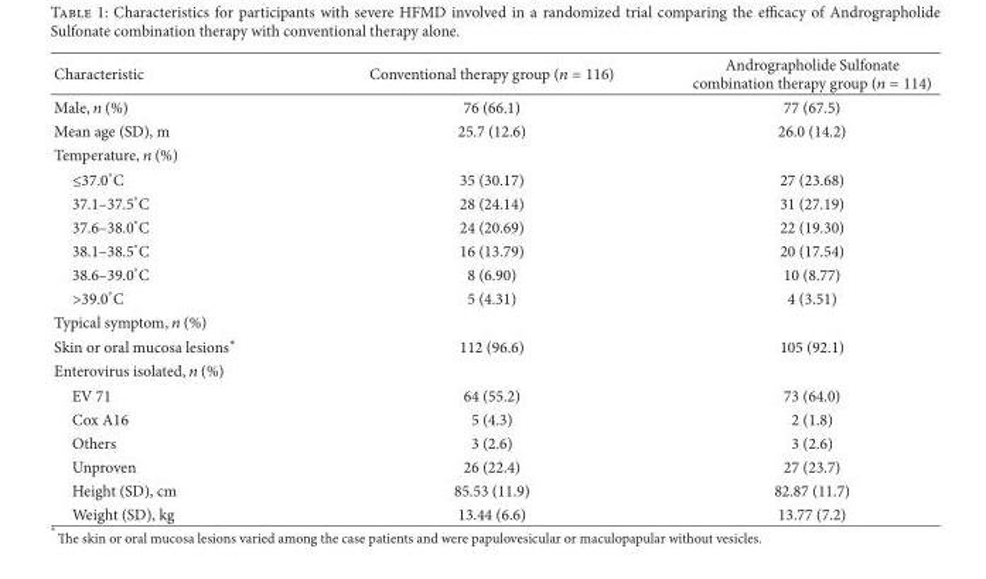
<table><thead><tr><td>Characteristic</td><td>Conventional therapy group (𝑛𝑛 𝑛 𝑛𝑛𝑛)</td><td>Andrographolide Sulfonate combination therapy group (𝑛𝑛 𝑛 𝑛𝑛𝑛)</td></tr></thead><tbody><tr><td>Male, 𝑛𝑛 (%)</td><td>76 (66.1)</td><td>77 (67.5)</td></tr><tr><td>Mean age (SD), m</td><td>25.7 (12.6)</td><td>26.0 (14.2)</td></tr><tr><td colspan="3">Temperature, 𝑛𝑛 (%)</td></tr><tr><td>≤37.0∘C</td><td>35 (30.17)</td><td>27 (23.68)</td></tr><tr><td>37.1–37.5∘C</td><td>28 (24.14)</td><td>31 (27.19)</td></tr><tr><td>37.6–38.0∘C</td><td>24 (20.69)</td><td>22 (19.30)</td></tr><tr><td>38.1–38.5∘C</td><td>16 (13.79)</td><td>20 (17.54)</td></tr><tr><td>38.6–39.0∘C</td><td>8 (6.90)</td><td>10 (8.77)</td></tr><tr><td>&gt;39.0∘C</td><td>5 (4.31)</td><td>4 (3.51)</td></tr><tr><td colspan="3">Typical symptom, 𝑛𝑛 (%)</td></tr><tr><td>Skin or oral mucosa lesions∗</td><td>112 (96.6)</td><td>105 (92.1)</td></tr><tr><td colspan="3">Enterovirus isolated, 𝑛𝑛 (%)</td></tr><tr><td>EV 71</td><td>64 (55.2)</td><td>73 (64.0)</td></tr><tr><td>Cox A16</td><td>5 (4.3)</td><td>2 (1.8)</td></tr><tr><td>Others</td><td>3 (2.6)</td><td>3 (2.6)</td></tr><tr><td>Unproven</td><td>26 (22.4)</td><td>27 (23.7)</td></tr><tr><td>Height (SD), cm</td><td>85.53 (11.9)</td><td>82.87 (11.7)</td></tr><tr><td>Weight (SD), kg</td><td>13.44 (6.6)</td><td>13.77 (7.2)</td></tr></tbody></table>